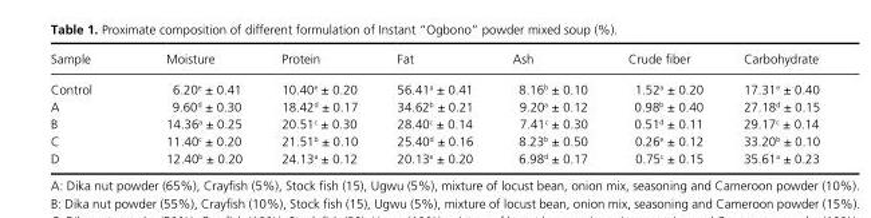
<table><thead><tr><td>Sample</td><td>Moisture</td><td>Protein</td><td>Fat</td><td>Ash</td><td>Crude fi ber</td><td>Carbohydrate</td></tr></thead><tbody><tr><td>Control</td><td>6.20 <sup>e</sup> ± 0.41</td><td>10.40 <sup>e</sup> ± 0.20</td><td>56.41 <sup>a</sup> ± 0.41</td><td>8.16 <sup>b</sup> ± 0.10</td><td>1.52 <sup>a</sup> ± 0.20</td><td>17.31 <sup>e</sup> ± 0.40</td></tr><tr><td>A</td><td>9.60 <sup>d</sup> ± 0.30</td><td>18.42 <sup>d</sup> ± 0.17</td><td>34.62 <sup>b</sup> ± 0.21</td><td>9.20 <sup>a</sup> ± 0.12</td><td>0.98 <sup>b</sup> ± 0.40</td><td>27.18 <sup>d</sup> ± 0.15</td></tr><tr><td>B</td><td>14.36 <sup>a</sup> ± 0.25</td><td>20.51 <sup>c</sup> ± 0.30</td><td>28.40 <sup>c</sup> ± 0.14</td><td>7.41 <sup>c</sup> ± 0.30</td><td>0.51 <sup>d</sup> ± 0.11</td><td>29.17 <sup>c</sup> ± 0.14</td></tr><tr><td>C</td><td>11.40 <sup>c</sup> ± 0.20</td><td>21.51 <sup>b</sup> ± 0.10</td><td>25.40 <sup>d</sup> ± 0.16</td><td>8.23 <sup>b</sup> ± 0.50</td><td>0.26 <sup>e</sup> ± 0.12</td><td>33.20 <sup>b</sup> ± 0.10</td></tr><tr><td>D</td><td>12.40 <sup>b</sup> ± 0.20</td><td>24.13 <sup>a</sup> ± 0.12</td><td>20.13 <sup>e</sup> ± 0.20</td><td>6.98 <sup>d</sup> ± 0.17</td><td>0.75 <sup>c</sup> ± 0.15</td><td>35.61 <sup>a</sup> ± 0.23</td></tr></tbody></table>